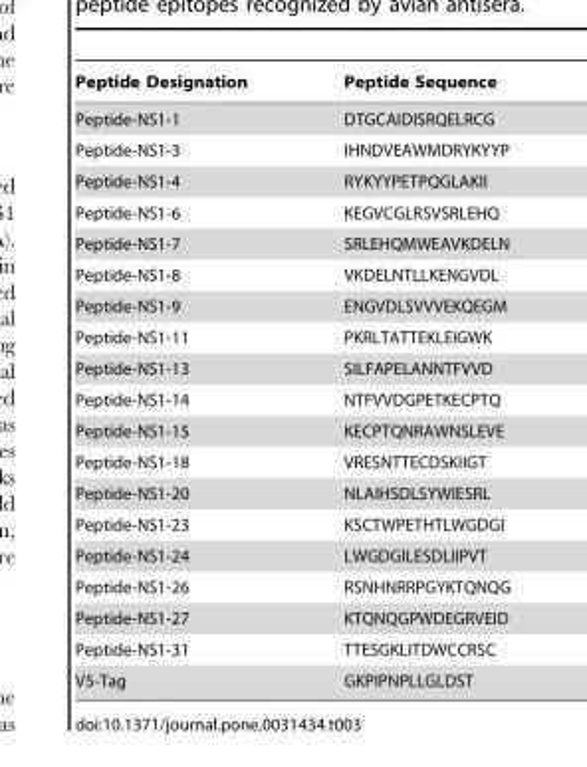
<table><thead><tr><td>Peptide Designation</td><td>Peptide Sequence</td></tr></thead><tbody><tr><td>Peptide-NS1-1</td><td>DTGCAIDISRQELRCG</td></tr><tr><td>Peptide-NS1-3</td><td>IHNDVEAWMDRYKYYP</td></tr><tr><td>Peptide-NS1-4</td><td>RYKYYPETPQGLAKII</td></tr><tr><td>Peptide-NS1-6</td><td>KEGVCGLRSVSRLEHQ</td></tr><tr><td>Peptide-NS1-7</td><td>SRLEHQMWEAVKDELN</td></tr><tr><td>Peptide-NS1-8</td><td>VKDELNTLLKENGVDL</td></tr><tr><td>Peptide-NS1-9</td><td>ENGVDLSVVVEKQEGM</td></tr><tr><td>Peptide-NS1-11</td><td>PKRLTATTEKLEIGWK</td></tr><tr><td>Peptide-NS1-13</td><td>SILFAPELANNTFVVD</td></tr><tr><td>Peptide-NS1-14</td><td>NTFVVDGPETKECPTQ</td></tr><tr><td>Peptide-NS1-15</td><td>KECPTQNRAWNSLEVE</td></tr><tr><td>Peptide-NS1-18</td><td>VRESNTTECDSKIIGT</td></tr><tr><td>Peptide-NS1-20</td><td>NLAIHSDLSYWIESRL</td></tr><tr><td>Peptide-NS1-23</td><td>KSCTWPETHTLWGDGI</td></tr><tr><td>Peptide-NS1-24</td><td>LWGDGILESDLIIPVT</td></tr><tr><td>Peptide-NS1-26</td><td>RSNHNRRPGYKTQNQG</td></tr><tr><td>Peptide-NS1-27</td><td>KTQNQGPWDEGRVEID</td></tr><tr><td>Peptide-NS1-31</td><td>TTESGKLITDWCCRSC</td></tr><tr><td>V5-Tag</td><td>GKPIPNPLLGLDST</td></tr></tbody></table>